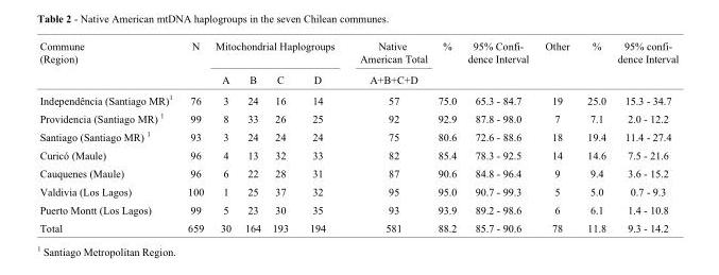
<table><thead><tr><td rowspan="2">Commune (Region)</td><td rowspan="2">N</td><td colspan="4">Mitochondrial Haplogroups</td><td rowspan="2">Native American Total A+B+C+D</td><td rowspan="2">%</td><td rowspan="2">95% Confi- dence Interval</td><td rowspan="2">Other</td><td rowspan="2">%</td><td rowspan="2">95% confi- dence Interval</td></tr><tr><td>A</td><td>B</td><td>C</td><td>D</td></tr></thead><tbody><tr><td>Independência (Santiago MR)<sup>1</sup></td><td>76</td><td>3</td><td>24</td><td>16</td><td>14</td><td>57</td><td>75.0</td><td>65.3 - 84.7</td><td>19</td><td>25.0</td><td>15.3 - 34.7</td></tr><tr><td>Providencia (Santiago MR) 1</td><td>99</td><td>8</td><td>33</td><td>26</td><td>25</td><td>92</td><td>92.9</td><td>87.8 - 98.0</td><td>7</td><td>7.1</td><td>2.0 - 12.2</td></tr><tr><td>Santiago (Santiago MR) 1</td><td>93</td><td>3</td><td>24</td><td>24</td><td>24</td><td>75</td><td>80.6</td><td>72.6 - 88.6</td><td>18</td><td>19.4</td><td>11.4 - 27.4</td></tr><tr><td>Curicó (Maule)</td><td>96</td><td>4</td><td>13</td><td>32</td><td>33</td><td>82</td><td>85.4</td><td>78.3 - 92.5</td><td>14</td><td>14.6</td><td>7.5 - 21.6</td></tr><tr><td>Cauquenes (Maule)</td><td>96</td><td>6</td><td>22</td><td>28</td><td>31</td><td>87</td><td>90.6</td><td>84.8 - 96.4</td><td>9</td><td>9.4</td><td>3.6 - 15.2</td></tr><tr><td>Valdivia (Los Lagos)</td><td>100</td><td>1</td><td>25</td><td>37</td><td>32</td><td>95</td><td>95.0</td><td>90.7 - 99.3</td><td>5</td><td>5.0</td><td>0.7 - 9.3</td></tr><tr><td>Puerto Montt (Los Lagos)</td><td>99</td><td>5</td><td>23</td><td>30</td><td>35</td><td>93</td><td>93.9</td><td>89.2 - 98.6</td><td>6</td><td>6.1</td><td>1.4 - 10.8</td></tr><tr><td>Total</td><td>659</td><td>30</td><td>164</td><td>193</td><td>194</td><td>581</td><td>88.2</td><td>85.7 - 90.6</td><td>78</td><td>11.8</td><td>9.3 - 14.2</td></tr></tbody></table>